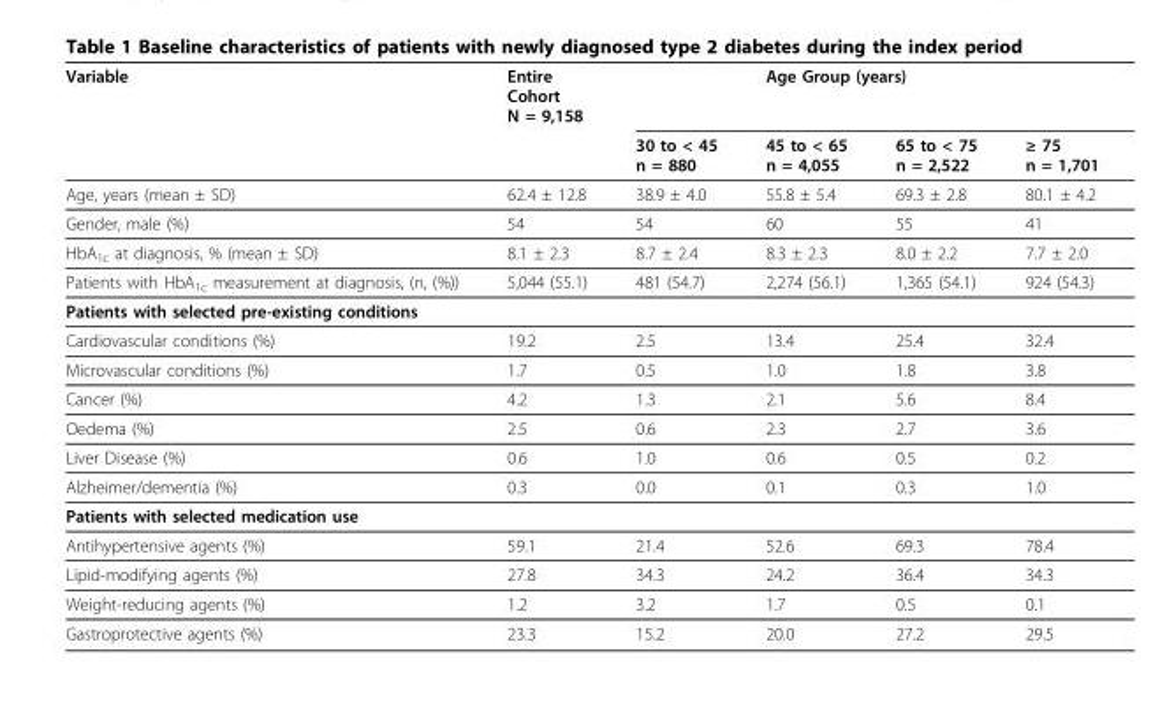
<table><thead><tr><td rowspan="2">Variable</td><td colspan="2">Entire Cohort N = 9,158</td><td colspan="3">Age Group (years)</td></tr><tr><td></td><td>30 to &lt; 45 n = 880</td><td>45 to &lt; 65 n = 4,055</td><td>65 to &lt; 75 n = 2,522</td><td>≥ 75 n = 1,701</td></tr></thead><tbody><tr><td>Age, years (mean ± SD)</td><td>62.4 ± 12.8</td><td>38.9 ± 4.0</td><td>55.8 ± 5.4</td><td>69.3 ± 2.8</td><td>80.1 ± 4.2</td></tr><tr><td>Gender, male (%)</td><td>54</td><td>54</td><td>60</td><td>55</td><td>41</td></tr><tr><td>HbA<sub>1c</sub> at diagnosis, % (mean ± SD)</td><td>8.1 ± 2.3</td><td>8.7 ± 2.4</td><td>8.3 ± 2.3</td><td>8.0 ± 2.2</td><td>7.7 ± 2.0</td></tr><tr><td>Patients with HbA<sub>1c</sub> measurement at diagnosis, (n, (%))</td><td>5,044 (55.1)</td><td>481 (54.7)</td><td>2,274 (56.1)</td><td>1,365 (54.1)</td><td>924 (54.3)</td></tr><tr><td colspan="6">Patients with selected pre-existing conditions</td></tr><tr><td>Cardiovascular conditions (%)</td><td>19.2</td><td>2.5</td><td>13.4</td><td>25.4</td><td>32.4</td></tr><tr><td>Microvascular conditions (%)</td><td>1.7</td><td>0.5</td><td>1.0</td><td>1.8</td><td>3.8</td></tr><tr><td>Cancer (%)</td><td>4.2</td><td>1.3</td><td>2.1</td><td>5.6</td><td>8.4</td></tr><tr><td>Oedema (%)</td><td>2.5</td><td>0.6</td><td>2.3</td><td>2.7</td><td>3.6</td></tr><tr><td>Liver Disease (%)</td><td>0.6</td><td>1.0</td><td>0.6</td><td>0.5</td><td>0.2</td></tr><tr><td>Alzheimer/dementia (%)</td><td>0.3</td><td>0.0</td><td>0.1</td><td>0.3</td><td>1.0</td></tr><tr><td colspan="6">Patients with selected medication use</td></tr><tr><td>Antihypertensive agents (%)</td><td>59.1</td><td>21.4</td><td>52.6</td><td>69.3</td><td>78.4</td></tr><tr><td>Lipid-modifying agents (%)</td><td>27.8</td><td>34.3</td><td>24.2</td><td>36.4</td><td>34.3</td></tr><tr><td>Weight-reducing agents (%)</td><td>1.2</td><td>3.2</td><td>1.7</td><td>0.5</td><td>0.1</td></tr><tr><td>Gastroprotective agents (%)</td><td>23.3</td><td>15.2</td><td>20.0</td><td>27.2</td><td>29.5</td></tr></tbody></table>